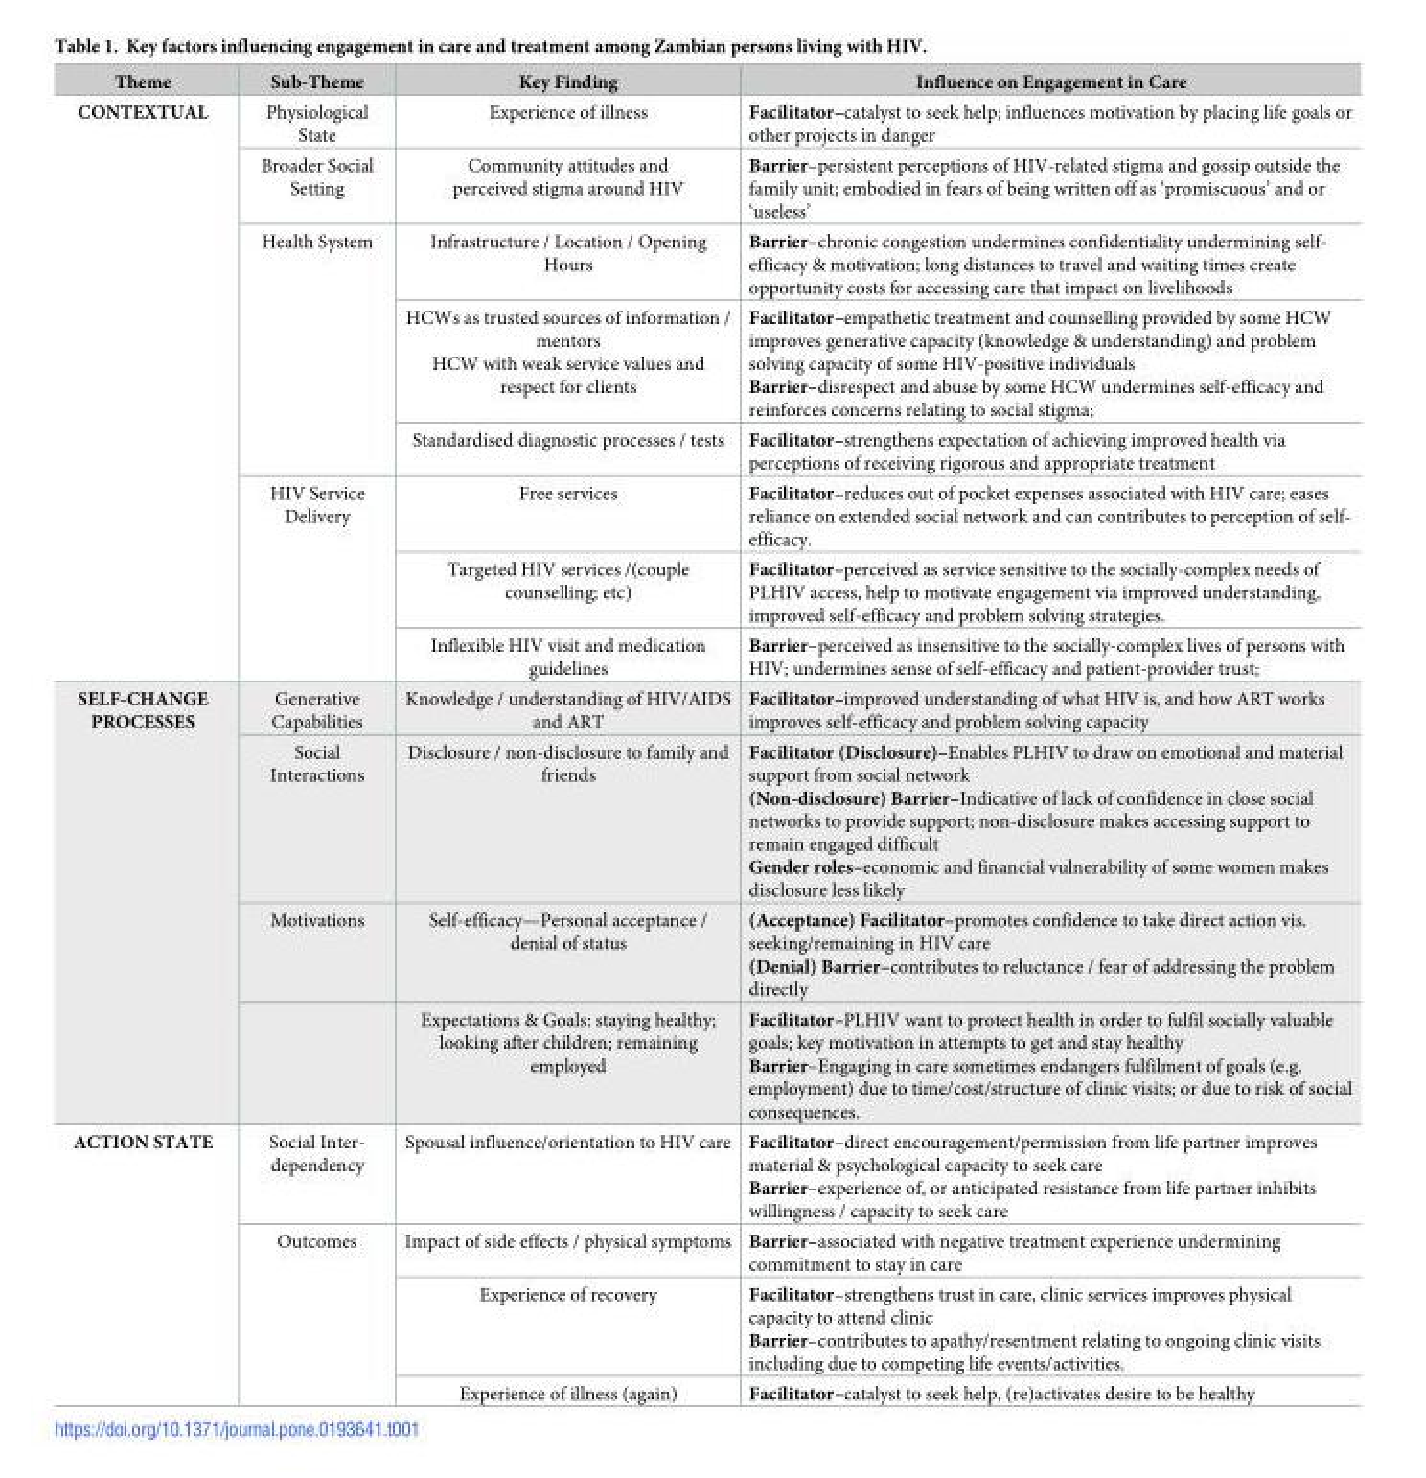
<table><thead><tr><td>Theme</td><td>Sub-Theme</td><td>Key Finding</td><td>Influence on Engagement in Care</td></tr></thead><tbody><tr><td rowspan="8">CONTEXTUAL</td><td>Physiological State</td><td>Experience of illness</td><td>Facilitator–catalyst to seek help; influences motivation by placing life goals or other projects in danger</td></tr><tr><td>Broader Social Setting</td><td>Community attitudes and perceived stigma around HIV</td><td>Barrier–persistent perceptions of HIV-related stigma and gossip outside the family unit; embodied in fears of being written off as ‘promiscuous’ and or ‘useless’</td></tr><tr><td rowspan="3">Health System</td><td>Infrastructure / Location / Opening Hours</td><td>Barrier–chronic congestion undermines confidentiality undermining self- efficacy &amp; motivation; long distances to travel and waiting times create opportunity costs for accessing care that impact on livelihoods</td></tr><tr><td>HCWs as trusted sources of information / mentors HCW with weak service values and respect for clients</td><td>Facilitator–empathetic treatment and counselling provided by some HCW improves generative capacity (knowledge &amp; understanding) and problem solving capacity of some HIV-positive individuals Barrier–disrespect and abuse by some HCW undermines self-efficacy and reinforces concerns relating to social stigma;</td></tr><tr><td>Standardised diagnostic processes / tests</td><td>Facilitator–strengthens expectation of achieving improved health via perceptions of receiving rigorous and appropriate treatment</td></tr><tr><td rowspan="3">HIV Service Delivery</td><td>Free services</td><td>Facilitator–reduces out of pocket expenses associated with HIV care; eases reliance on extended social network and can contributes to perception of self- efficacy.</td></tr><tr><td>Targeted HIV services /(couple counselling; etc)</td><td>Facilitator–perceived as service sensitive to the socially-complex needs of PLHIV access, help to motivate engagement via improved understanding, improved self-efficacy and problem solving strategies.</td></tr><tr><td>Inflexible HIV visit and medication guidelines</td><td>Barrier–perceived as insensitive to the socially-complex lives of persons with HIV; undermines sense of self-efficacy and patient-provider trust;</td></tr><tr><td rowspan="4">SELF-CHANGE PROCESSES</td><td>Generative Capabilities</td><td>Knowledge / understanding of HIV/AIDS and ART</td><td>Facilitator–improved understanding of what HIV is, and how ART works improves self-efficacy and problem solving capacity</td></tr><tr><td>Social Interactions</td><td>Disclosure / non-disclosure to family and friends</td><td>Facilitator (Disclosure)–Enables PLHIV to draw on emotional and material support from social network (Non-disclosure) Barrier–Indicative of lack of confidence in close social networks to provide support; non-disclosure makes accessing support to remain engaged difficult Gender roles–economic and financial vulnerability of some women makes disclosure less likely</td></tr><tr><td>Motivations</td><td>Self-efficacy—Personal acceptance / denial of status</td><td>(Acceptance) Facilitator–promotes confidence to take direct action vis. seeking/remaining in HIV care (Denial) Barrier–contributes to reluctance / fear of addressing the problem directly</td></tr><tr><td></td><td>Expectations &amp; Goals: staying healthy; looking after children; remaining employed</td><td>Facilitator–PLHIV want to protect health in order to fulfil socially valuable goals; key motivation in attempts to get and stay healthy Barrier–Engaging in care sometimes endangers fulfilment of goals (e.g. employment) due to time/cost/structure of clinic visits; or due to risk of social consequences.</td></tr><tr><td rowspan="4">ACTION STATE</td><td>Social Inter- dependency</td><td>Spousal influence/orientation to HIV care</td><td>Facilitator–direct encouragement/permission from life partner improves material &amp; psychological capacity to seek care Barrier–experience of, or anticipated resistance from life partner inhibits willingness / capacity to seek care</td></tr><tr><td rowspan="3">Outcomes</td><td>Impact of side effects / physical symptoms</td><td>Barrier–associated with negative treatment experience undermining commitment to stay in care</td></tr><tr><td>Experience of recovery</td><td>Facilitator–strengthens trust in care, clinic services improves physical capacity to attend clinic Barrier–contributes to apathy/resentment relating to ongoing clinic visits including due to competing life events/activities.</td></tr><tr><td>Experience of illness (again)</td><td>Facilitator–catalyst to seek help, (re)activates desire to be healthy</td></tr></tbody></table>